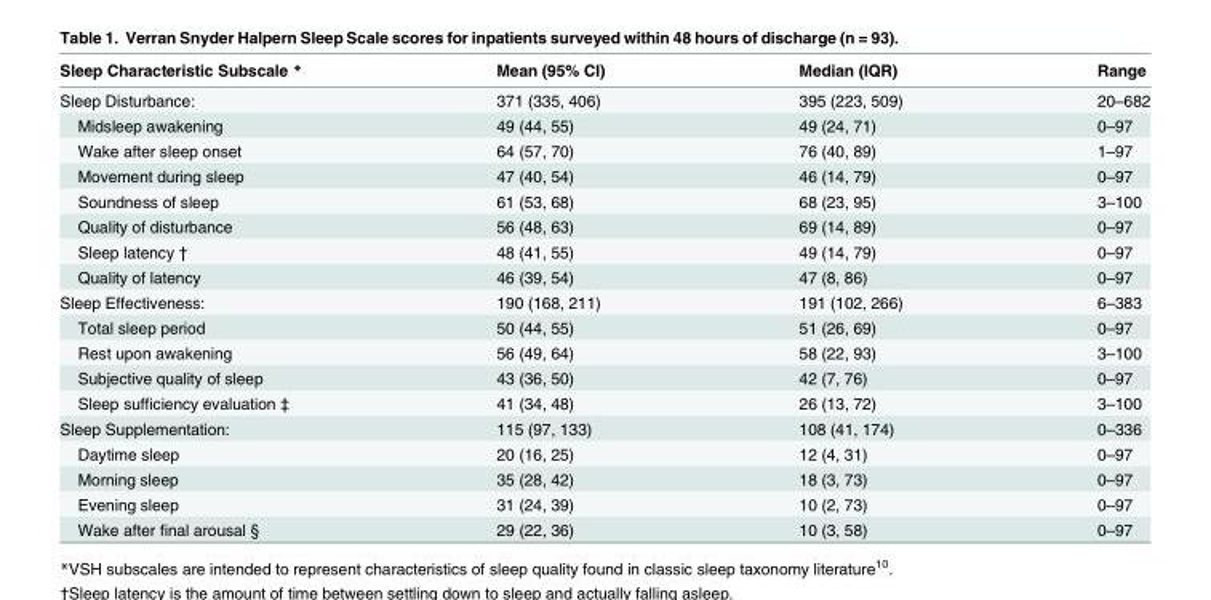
<table><thead><tr><td>Sleep Characteristic Subscale *</td><td>Mean (95% CI)</td><td>Median (IQR)</td><td>Range</td></tr></thead><tbody><tr><td>Sleep Disturbance:</td><td>371 (335, 406)</td><td>395 (223, 509)</td><td>20–682</td></tr><tr><td>Midsleep awakening</td><td>49 (44, 55)</td><td>49 (24, 71)</td><td>0–97</td></tr><tr><td>Wake after sleep onset</td><td>64 (57, 70)</td><td>76 (40, 89)</td><td>1–97</td></tr><tr><td>Movement during sleep</td><td>47 (40, 54)</td><td>46 (14, 79)</td><td>0–97</td></tr><tr><td>Soundness of sleep</td><td>61 (53, 68)</td><td>68 (23, 95)</td><td>3–100</td></tr><tr><td>Quality of disturbance</td><td>56 (48, 63)</td><td>69 (14, 89)</td><td>0–97</td></tr><tr><td>Sleep latency †</td><td>48 (41, 55)</td><td>49 (14, 79)</td><td>0–97</td></tr><tr><td>Quality of latency</td><td>46 (39, 54)</td><td>47 (8, 86)</td><td>0–97</td></tr><tr><td>Sleep Effectiveness:</td><td>190 (168, 211)</td><td>191 (102, 266)</td><td>6–383</td></tr><tr><td>Total sleep period</td><td>50 (44, 55)</td><td>51 (26, 69)</td><td>0–97</td></tr><tr><td>Rest upon awakening</td><td>56 (49, 64)</td><td>58 (22, 93)</td><td>3–100</td></tr><tr><td>Subjective quality of sleep</td><td>43 (36, 50)</td><td>42 (7, 76)</td><td>0–97</td></tr><tr><td>Sleep sufficiency evaluation ‡</td><td>41 (34, 48)</td><td>26 (13, 72)</td><td>3–100</td></tr><tr><td>Sleep Supplementation:</td><td>115 (97, 133)</td><td>108 (41, 174)</td><td>0–336</td></tr><tr><td>Daytime sleep</td><td>20 (16, 25)</td><td>12 (4, 31)</td><td>0–97</td></tr><tr><td>Morning sleep</td><td>35 (28, 42)</td><td>18 (3, 73)</td><td>0–97</td></tr><tr><td>Evening sleep</td><td>31 (24, 39)</td><td>10 (2, 73)</td><td>0–97</td></tr><tr><td>Wake after final arousal §</td><td>29 (22, 36)</td><td>10 (3, 58)</td><td>0–97</td></tr></tbody></table>